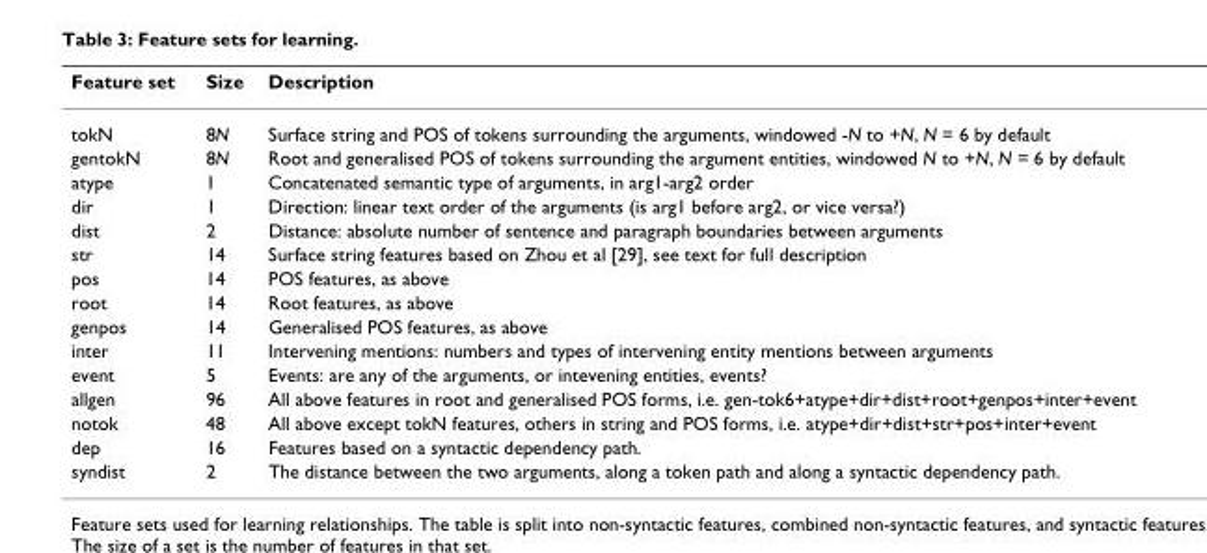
<table><thead><tr><td>Feature set</td><td>Size</td><td>Description</td></tr></thead><tbody><tr><td>tokN</td><td>8N</td><td>Surface string and POS of tokens surrounding the arguments, windowed -N to +N, N = 6 by default</td></tr><tr><td>gentokN</td><td>8N</td><td>Root and generalised POS of tokens surrounding the argument entities, windowed N to +N, N = 6 by default</td></tr><tr><td>atype</td><td>1</td><td>Concatenated semantic type of arguments, in arg1-arg2 order</td></tr><tr><td>dir</td><td>1</td><td>Direction: linear text order of the arguments (is arg1 before arg2, or vice versa?)</td></tr><tr><td>dist</td><td>2</td><td>Distance: absolute number of sentence and paragraph boundaries between arguments</td></tr><tr><td>str</td><td>14</td><td>Surface string features based on Zhou et al [29], see text for full description</td></tr><tr><td>pos</td><td>14</td><td>POS features, as above</td></tr><tr><td>root</td><td>14</td><td>Root features, as above</td></tr><tr><td>genpos</td><td>14</td><td>Generalised POS features, as above</td></tr><tr><td>inter</td><td>11</td><td>Intervening mentions: numbers and types of intervening entity mentions between arguments</td></tr><tr><td>event</td><td>5</td><td>Events: are any of the arguments, or intevening entities, events?</td></tr><tr><td>allgen</td><td>96</td><td>All above features in root and generalised POS forms, i.e. gen-tok6+atype+dir+dist+root+genpos+inter+event</td></tr><tr><td>notok</td><td>48</td><td>All above except tokN features, others in string and POS forms, i.e. atype+dir+dist+str+pos+inter+event</td></tr><tr><td>dep</td><td>16</td><td>Features based on a syntactic dependency path.</td></tr><tr><td>syndist</td><td>2</td><td>The distance between the two arguments, along a token path and along a syntactic dependency path.</td></tr></tbody></table>